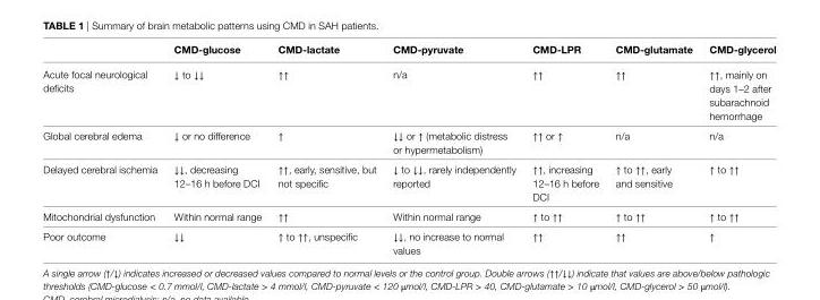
<table><thead><tr><td></td><td>CMD-glucose</td><td>CMD-lactate</td><td>CMD-pyruvate</td><td>CMD-LPR</td><td>CMD-glutamate</td><td>CMD-glycerol</td></tr></thead><tbody><tr><td>Acute focal neurological deficits</td><td>↓ to ↓↓</td><td>↑↑</td><td>n/a</td><td>↑↑</td><td>↑↑</td><td>↑↑, mainly on days 1–2 after subarachnoid hemorrhage</td></tr><tr><td>Global cerebral edema</td><td>↓ or no difference</td><td>↑</td><td>↓↓ or ↑ (metabolic distress or hypermetabolism)</td><td>↑↑ or ↑</td><td>n/a</td><td>n/a</td></tr><tr><td>Delayed cerebral ischemia</td><td>↓↓, decreasing 12–16 h before DCI</td><td>↑↑, early, sensitive, but not specific</td><td>↓ to ↓↓, rarely independently reported</td><td>↑↑, increasing 12–16 h before DCI</td><td>↑ to ↑↑, early and sensitive</td><td>↑ to ↑↑</td></tr><tr><td>Mitochondrial dysfunction</td><td>Within normal range</td><td>↑↑</td><td>Within normal range</td><td>↑ to ↑↑</td><td>↑ to ↑↑</td><td>↑ to ↑↑</td></tr><tr><td>Poor outcome</td><td>↓↓</td><td>↑ to ↑↑, unspecific</td><td>↓↓, no increase to normal values</td><td>↑↑</td><td>↑↑</td><td>↑</td></tr></tbody></table>